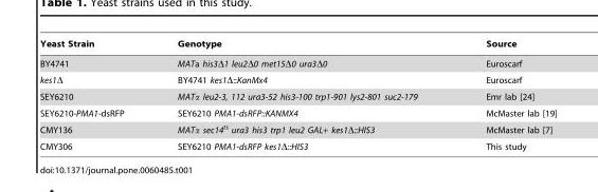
<table><thead><tr><td>Yeast Strain</td><td>Genotype</td><td>Source</td></tr></thead><tbody><tr><td>BY4741</td><td>MATa his3Δ1 leu2Δ0 met15Δ0 ura3Δ0</td><td>Euroscarf</td></tr><tr><td>kes1Δ</td><td>BY4741 kes1Δ::KanMx4</td><td>Euroscarf</td></tr><tr><td>SEY6210</td><td>MATα leu2-3, 112 ura3-52 his3-100 trp1-901 lys2-801 suc2-179</td><td>Emr lab [24]</td></tr><tr><td>SEY6210-PMA1-dsRFP</td><td>SEY6210 PMA1-dsRFP::KANMX4</td><td>McMaster lab [19]</td></tr><tr><td>CMY136</td><td>MATα sec14<sup>ts</sup> ura3 his3 trp1 leu2 GAL+ kes1Δ::HIS3</td><td>McMaster lab [7]</td></tr><tr><td>CMY306</td><td>SEY6210 PMA1-dsRFP kes1Δ::HIS3</td><td>This study</td></tr></tbody></table>